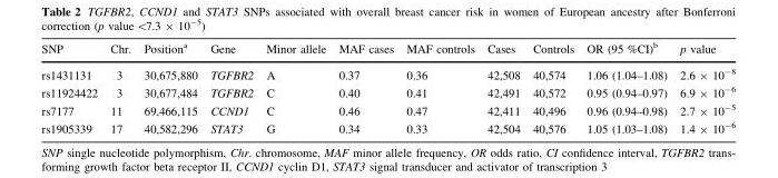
<table><thead><tr><td>SNP</td><td>Chr.</td><td>Position<sup>a</sup></td><td>Gene</td><td>Minor allele</td><td>MAF cases</td><td>MAF controls</td><td>Cases</td><td>Controls</td><td>OR (95 %CI)<sup>b</sup></td><td>p value</td></tr></thead><tbody><tr><td>rs1431131</td><td>3</td><td>30,675,880</td><td>TGFBR2</td><td>A</td><td>0.37</td><td>0.36</td><td>42,508</td><td>40,574</td><td>1.06 (1.04–1.08)</td><td>2.6 × 10<sup>-8</sup></td></tr><tr><td>rs11924422</td><td>3</td><td>30,677,484</td><td>TGFBR2</td><td>C</td><td>0.40</td><td>0.41</td><td>42,491</td><td>40,572</td><td>0.95 (0.94–0.97)</td><td>6.9 × 10<sup>-6</sup></td></tr><tr><td>rs7177</td><td>11</td><td>69,466,115</td><td>CCND1</td><td>C</td><td>0.46</td><td>0.47</td><td>42,411</td><td>40,496</td><td>0.96 (0.94–0.98)</td><td>2.7 × 10<sup>-5</sup></td></tr><tr><td>rs1905339</td><td>17</td><td>40,582,296</td><td>STAT3</td><td>G</td><td>0.34</td><td>0.33</td><td>42,504</td><td>40,576</td><td>1.05 (1.03–1.08)</td><td>1.4 × 10<sup>-6</sup></td></tr></tbody></table>